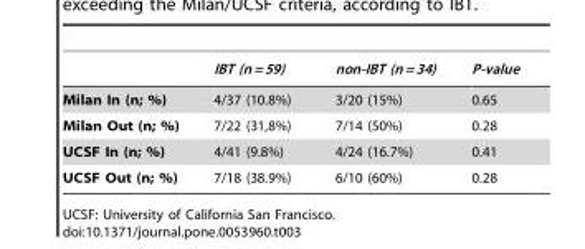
<table><thead><tr><td></td><td>IBT (n = 59)</td><td>non-IBT (n = 34)</td><td>P-value</td></tr></thead><tbody><tr><td>Milan In (n; %)</td><td>4/37 (10.8%)</td><td>3/20 (15%)</td><td>0.65</td></tr><tr><td>Milan Out (n; %)</td><td>7/22 (31,8%)</td><td>7/14 (50%)</td><td>0.28</td></tr><tr><td>UCSF In (n; %)</td><td>4/41 (9.8%)</td><td>4/24 (16.7%)</td><td>0.41</td></tr><tr><td>UCSF Out (n; %)</td><td>7/18 (38.9%)</td><td>6/10 (60%)</td><td>0.28</td></tr></tbody></table>